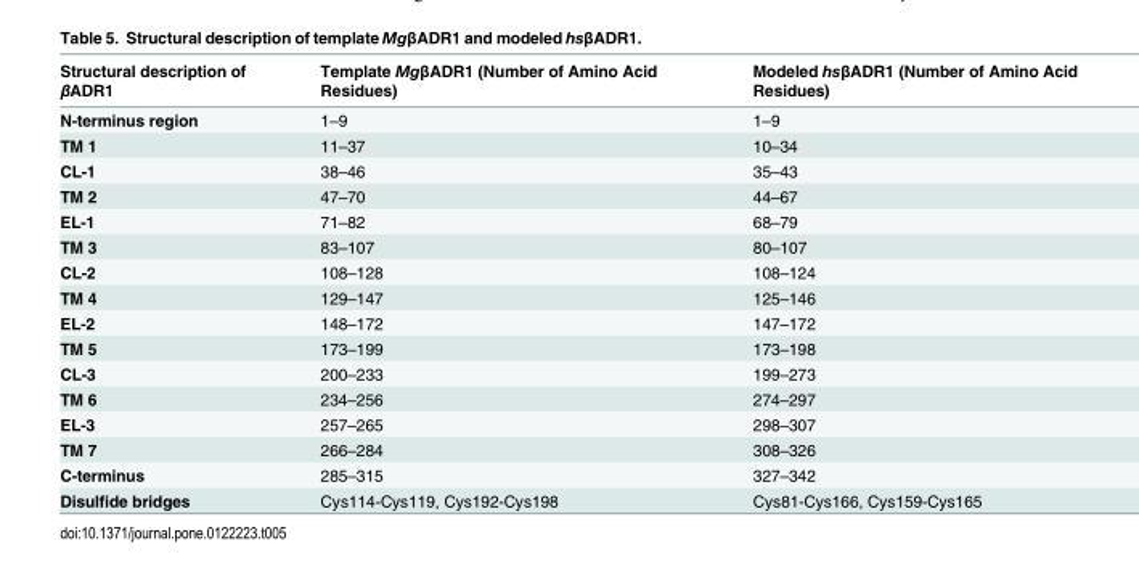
<table><thead><tr><td>Structural description of βADR1</td><td>Template MgβADR1 (Number of Amino Acid Residues)</td><td>Modeled hsβADR1 (Number of Amino Acid Residues)</td></tr></thead><tbody><tr><td>N-terminus region</td><td>1–9</td><td>1–9</td></tr><tr><td>TM 1</td><td>11–37</td><td>10–34</td></tr><tr><td>CL-1</td><td>38–46</td><td>35–43</td></tr><tr><td>TM 2</td><td>47–70</td><td>44–67</td></tr><tr><td>EL-1</td><td>71–82</td><td>68–79</td></tr><tr><td>TM 3</td><td>83–107</td><td>80–107</td></tr><tr><td>CL-2</td><td>108–128</td><td>108–124</td></tr><tr><td>TM 4</td><td>129–147</td><td>125–146</td></tr><tr><td>EL-2</td><td>148–172</td><td>147–172</td></tr><tr><td>TM 5</td><td>173–199</td><td>173–198</td></tr><tr><td>CL-3</td><td>200–233</td><td>199–273</td></tr><tr><td>TM 6</td><td>234–256</td><td>274–297</td></tr><tr><td>EL-3</td><td>257–265</td><td>298–307</td></tr><tr><td>TM 7</td><td>266–284</td><td>308–326</td></tr><tr><td>C-terminus</td><td>285–315</td><td>327–342</td></tr><tr><td>Disulfide bridges</td><td>Cys114-Cys119, Cys192-Cys198</td><td>Cys81-Cys166, Cys159-Cys165</td></tr></tbody></table>